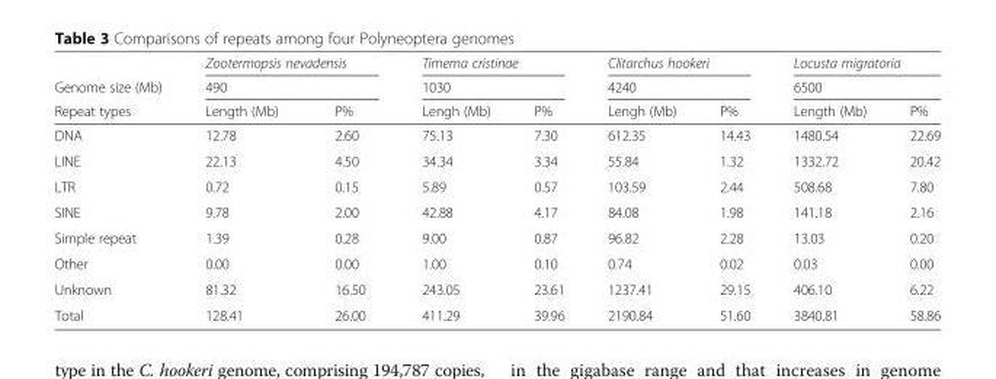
<table><thead><tr><td rowspan="3">Genome size (Mb) Repeat types</td><td rowspan="2" colspan="2">Zootermopsis nevadensis 490</td><td rowspan="2" colspan="2">Timema cristinae 1030</td><td rowspan="2" colspan="2">Clitarchus hookeri 4240</td><td rowspan="2" colspan="2">Locusta migratoria 6500</td></tr><tr></tr><tr><td>Length (Mb)</td><td>P%</td><td>Lengh (Mb)</td><td>P%</td><td>Lengh (Mb)</td><td>P%</td><td>Length (Mb)</td><td>P%</td></tr></thead><tbody><tr><td>DNA</td><td>12.78</td><td>2.60</td><td>75.13</td><td>7.30</td><td>612.35</td><td>14.43</td><td>1480.54</td><td>22.69</td></tr><tr><td>LINE</td><td>22.13</td><td>4.50</td><td>34.34</td><td>3.34</td><td>55.84</td><td>1.32</td><td>1332.72</td><td>20.42</td></tr><tr><td>LTR</td><td>0.72</td><td>0.15</td><td>5.89</td><td>0.57</td><td>103.59</td><td>2.44</td><td>508.68</td><td>7.80</td></tr><tr><td>SINE</td><td>9.78</td><td>2.00</td><td>42.88</td><td>4.17</td><td>84.08</td><td>1.98</td><td>141.18</td><td>2.16</td></tr><tr><td>Simple repeat</td><td>1.39</td><td>0.28</td><td>9.00</td><td>0.87</td><td>96.82</td><td>2.28</td><td>13.03</td><td>0.20</td></tr><tr><td>Other</td><td>0.00</td><td>0.00</td><td>1.00</td><td>0.10</td><td>0.74</td><td>0.02</td><td>0.03</td><td>0.00</td></tr><tr><td>Unknown</td><td>81.32</td><td>16.50</td><td>243.05</td><td>23.61</td><td>1237.41</td><td>29.15</td><td>406.10</td><td>6.22</td></tr><tr><td>Total</td><td>128.41</td><td>26.00</td><td>411.29</td><td>39.96</td><td>2190.84</td><td>51.60</td><td>3840.81</td><td>58.86</td></tr></tbody></table>